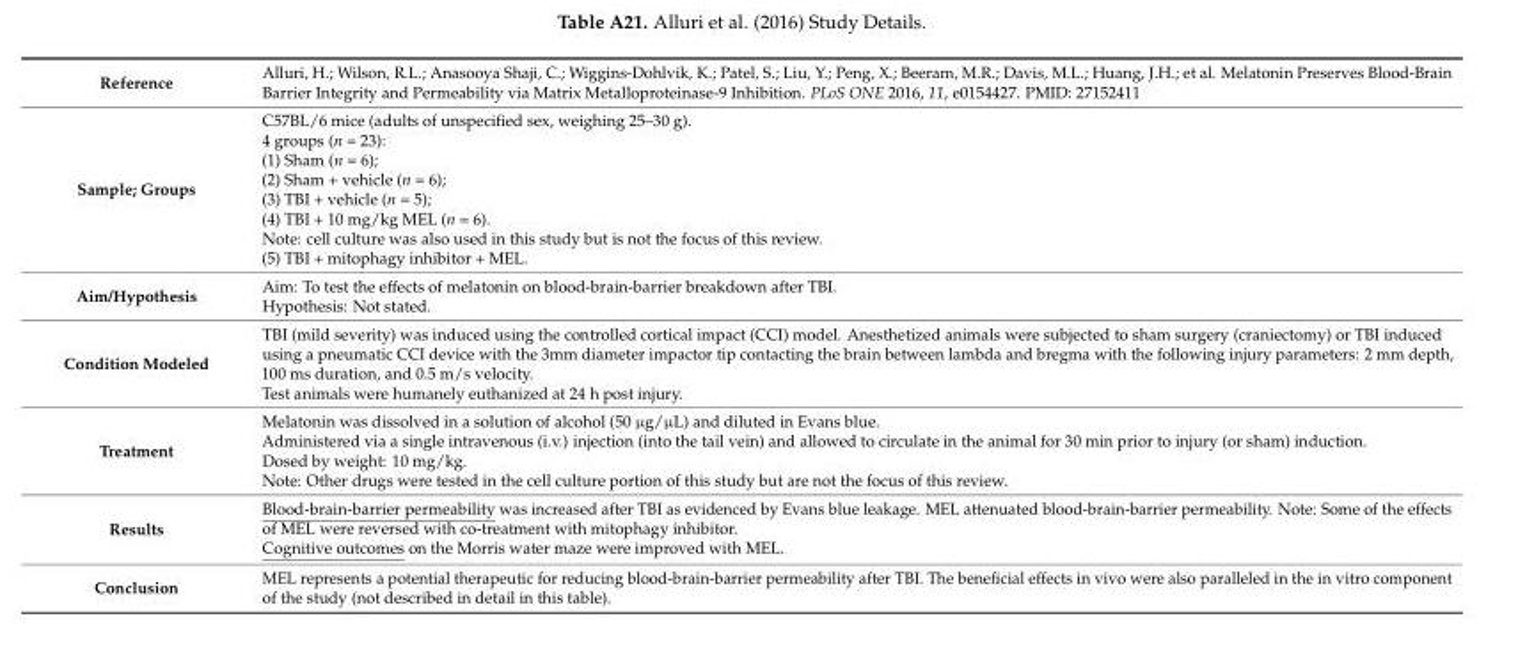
<table><tbody><tr><td>Reference</td><td>Alluri, H.; Wilson, R.L.; Anasooya Shaji, C.; Wiggins-Dohlvik, K.; Patel, S.; Liu, Y.; Peng, X.; Beeram, M.R.; Davis, M.L.; Huang, J.H.; et al. Melatonin Preserves Blood-Brain Barrier Integrity and Permeability via Matrix Metalloproteinase-9 Inhibition. PLoS ONE 2016, 11, e0154427. PMID: 27152411</td></tr><tr><td>Sample; Groups</td><td>C57BL/6 mice (adults of unspecified sex, weighing 25–30 g). 4 groups (n = 23): (1) Sham (n = 6); (2) Sham + vehicle (n = 6); (3) TBI + vehicle (n = 5); (4) TBI + 10 mg/kg MEL (n = 6). Note: cell culture was also used in this study but is not the focus of this review. (5) TBI + mitophagy inhibitor + MEL.</td></tr><tr><td>Aim/Hypothesis</td><td>Aim: To test the effects of melatonin on blood-brain-barrier breakdown after TBI. Hypothesis: Not stated.</td></tr><tr><td>Condition Modeled</td><td>TBI (mild severity) was induced using the controlled cortical impact (CCI) model. Anesthetized animals were subjected to sham surgery (craniectomy) or TBI induced using a pneumatic CCI device with the 3mm diameter impactor tip contacting the brain between lambda and bregma with the following injury parameters: 2 mm depth, 100 ms duration, and 0.5 m/s velocity. Test animals were humanely euthanized at 24 h post injury.</td></tr><tr><td>Treatment</td><td>Melatonin was dissolved in a solution of alcohol (50 µg/µL) and diluted in Evans blue. Administered via a single intravenous (i.v.) injection (into the tail vein) and allowed to circulate in the animal for 30 min prior to injury (or sham) induction. Dosed by weight: 10 mg/kg. Note: Other drugs were tested in the cell culture portion of this study but are not the focus of this review.</td></tr><tr><td>Results</td><td>Blood-brain-barrier permeability was increased after TBI as evidenced by Evans blue leakage. MEL attenuated blood-brain-barrier permeability. Note: Some of the effects of MEL were reversed with co-treatment with mitophagy inhibitor. Cognitive outcomes on the Morris water maze were improved with MEL.</td></tr><tr><td>Conclusion</td><td>MEL represents a potential therapeutic for reducing blood-brain-barrier permeability after TBI. The beneficial effects in vivo were also paralleled in the in vitro component of the study (not described in detail in this table).</td></tr></tbody></table>